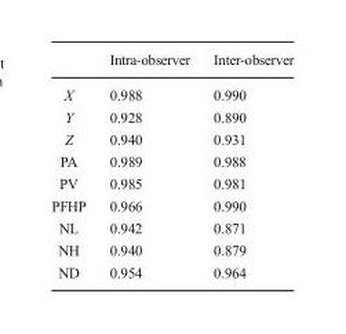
<table><thead><tr><td></td><td>Intra-observer</td><td>Inter-observer</td></tr></thead><tbody><tr><td>X</td><td>0.988</td><td>0.990</td></tr><tr><td>Y</td><td>0.928</td><td>0.890</td></tr><tr><td>Z</td><td>0.940</td><td>0.931</td></tr><tr><td>PA</td><td>0.989</td><td>0.988</td></tr><tr><td>PV</td><td>0.985</td><td>0.981</td></tr><tr><td>PFHP</td><td>0.966</td><td>0.990</td></tr><tr><td>NL</td><td>0.942</td><td>0.871</td></tr><tr><td>NH</td><td>0.940</td><td>0.879</td></tr><tr><td>ND</td><td>0.954</td><td>0.964</td></tr></tbody></table>